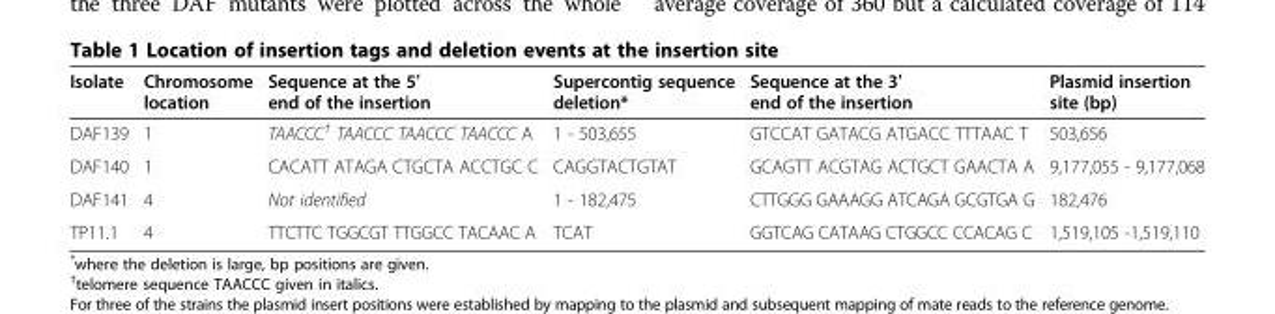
<table><thead><tr><td>Isolate</td><td>Chromosome location</td><td>Sequence at the 5′ end of the insertion</td><td>Supercontig sequence deletion*</td><td>Sequence at the 3′ end of the insertion</td><td>Plasmid insertion site (bp)</td></tr></thead><tbody><tr><td>DAF139</td><td>1</td><td>TAACCC<sup>†</sup> TAACCC TAACCC TAACCC A</td><td>1 - 503,655</td><td>GTCCAT GATACG ATGACC TTTAAC T</td><td>503,656</td></tr><tr><td>DAF140</td><td>1</td><td>CACATT ATAGA CTGCTA ACCTGC C</td><td>CAGGTACTGTAT</td><td>GCAGTT ACGTAG ACTGCT GAACTA A</td><td>9,177,055 - 9,177,068</td></tr><tr><td>DAF141</td><td>4</td><td>Not identified</td><td>1 - 182,475</td><td>CTTGGG GAAAGG ATCAGA GCGTGA G</td><td>182,476</td></tr><tr><td>TP11.1</td><td>4</td><td>TTCTTC TGGCGT TTGGCC TACAAC A</td><td>TCAT</td><td>GGTCAG CATAAG CTGGCC CCACAG C</td><td>1,519,105 -1,519,110</td></tr></tbody></table>